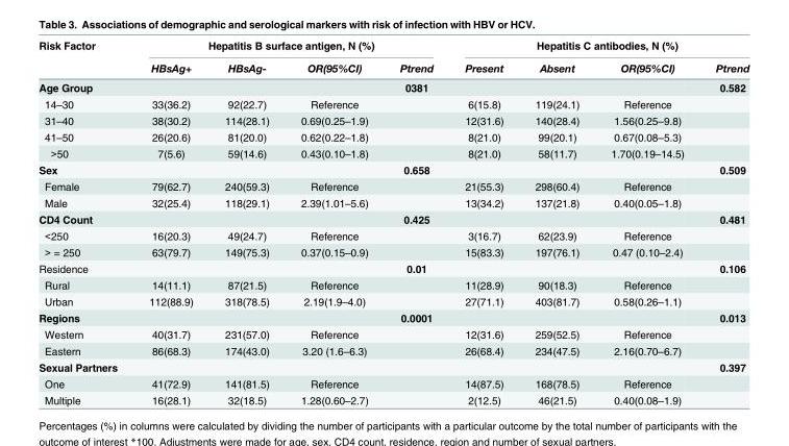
<table><thead><tr><td rowspan="2">Risk Factor</td><td colspan="4">Hepatitis B surface antigen, N (%)</td><td colspan="4">Hepatitis C antibodies, N (%)</td></tr><tr><td>HBsAg+</td><td>HBsAg-</td><td>OR(95%CI)</td><td>Ptrend</td><td>Present</td><td>Absent</td><td>OR(95%CI)</td><td>Ptrend</td></tr></thead><tbody><tr><td>Age Group</td><td></td><td></td><td></td><td>0381</td><td></td><td></td><td></td><td>0.582</td></tr><tr><td>14–30</td><td>33(36.2)</td><td>92(22.7)</td><td>Reference</td><td></td><td>6(15.8)</td><td>119(24.1)</td><td>Reference</td><td></td></tr><tr><td>31–40</td><td>38(30.2)</td><td>114(28.1)</td><td>0.69(0.25–1.9)</td><td></td><td>12(31.6)</td><td>140(28.4)</td><td>1.56(0.25–9.8)</td><td></td></tr><tr><td>41–50</td><td>26(20.6)</td><td>81(20.0)</td><td>0.62(0.22–1.8)</td><td></td><td>8(21.0)</td><td>99(20.1)</td><td>0.67(0.08–5.3)</td><td></td></tr><tr><td>&gt;50</td><td>7(5.6)</td><td>59(14.6)</td><td>0.43(0.10–1.8)</td><td></td><td>8(21.0)</td><td>58(11.7)</td><td>1.70(0.19–14.5)</td><td></td></tr><tr><td>Sex</td><td></td><td></td><td></td><td>0.658</td><td></td><td></td><td></td><td>0.509</td></tr><tr><td>Female</td><td>79(62.7)</td><td>240(59.3)</td><td>Reference</td><td></td><td>21(55.3)</td><td>298(60.4)</td><td>Reference</td><td></td></tr><tr><td>Male</td><td>32(25.4)</td><td>118(29.1)</td><td>2.39(1.01–5.6)</td><td></td><td>13(34.2)</td><td>137(21.8)</td><td>0.40(0.05–1.8)</td><td></td></tr><tr><td>CD4 Count</td><td></td><td></td><td></td><td>0.425</td><td></td><td></td><td></td><td>0.481</td></tr><tr><td>&lt;250</td><td>16(20.3)</td><td>49(24.7)</td><td>Reference</td><td></td><td>3(16.7)</td><td>62(23.9)</td><td>Reference</td><td></td></tr><tr><td>&gt; = 250</td><td>63(79.7)</td><td>149(75.3)</td><td>0.37(0.15–0.9)</td><td></td><td>15(83.3)</td><td>197(76.1)</td><td>0.47 (0.10–2.4)</td><td></td></tr><tr><td>Residence</td><td></td><td></td><td></td><td>0.01</td><td></td><td></td><td></td><td>0.106</td></tr><tr><td>Rural</td><td>14(11.1)</td><td>87(21.5)</td><td>Reference</td><td></td><td>11(28.9)</td><td>90(18.3)</td><td>Reference</td><td></td></tr><tr><td>Urban</td><td>112(88.9)</td><td>318(78.5)</td><td>2.19(1.9–4.0)</td><td></td><td>27(71.1)</td><td>403(81.7)</td><td>0.58(0.26–1.1)</td><td></td></tr><tr><td>Regions</td><td></td><td></td><td></td><td>0.0001</td><td></td><td></td><td></td><td>0.013</td></tr><tr><td>Western</td><td>40(31.7)</td><td>231(57.0)</td><td>Reference</td><td></td><td>12(31.6)</td><td>259(52.5)</td><td>Reference</td><td></td></tr><tr><td>Eastern</td><td>86(68.3)</td><td>174(43.0)</td><td>3.20 (1.6–6.3)</td><td></td><td>26(68.4)</td><td>234(47.5)</td><td>2.16(0.70–6.7)</td><td></td></tr><tr><td>Sexual Partners</td><td></td><td></td><td></td><td></td><td></td><td></td><td></td><td>0.397</td></tr><tr><td>One</td><td>41(72.9)</td><td>141(81.5)</td><td>Reference</td><td></td><td>14(87.5)</td><td>168(78.5)</td><td>Reference</td><td></td></tr><tr><td>Multiple</td><td>16(28.1)</td><td>32(18.5)</td><td>1.28(0.60–2.7)</td><td></td><td>2(12.5)</td><td>46(21.5)</td><td>0.40(0.08–1.9)</td><td></td></tr></tbody></table>